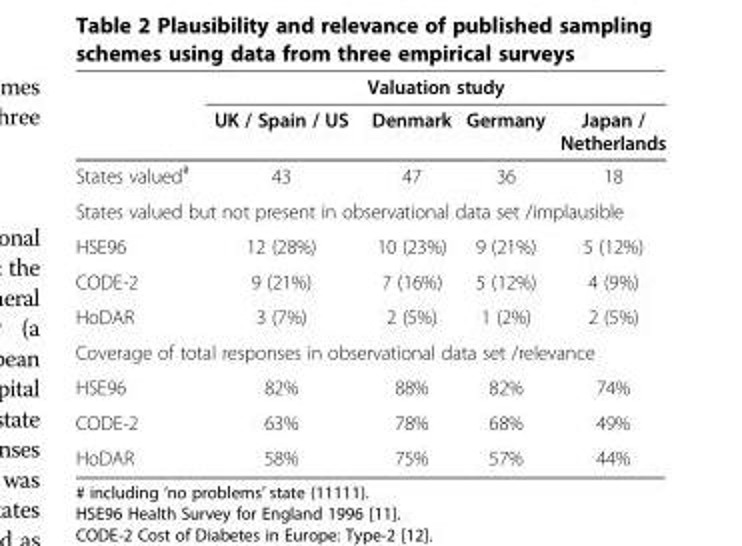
<table><thead><tr><td rowspan="2"></td><td colspan="4">Valuation study</td></tr><tr><td>UK / Spain / US</td><td>Denmark</td><td>Germany</td><td>Japan / Netherlands</td></tr></thead><tbody><tr><td>States valued<sup>#</sup></td><td>43</td><td>47</td><td>36</td><td>18</td></tr><tr><td colspan="5">States valued but not present in observational data set /implausible</td></tr><tr><td>HSE96</td><td>12 (28%)</td><td>10 (23%)</td><td>9 (21%)</td><td>5 (12%)</td></tr><tr><td>CODE-2</td><td>9 (21%)</td><td>7 (16%)</td><td>5 (12%)</td><td>4 (9%)</td></tr><tr><td>HoDAR</td><td>3 (7%)</td><td>2 (5%)</td><td>1 (2%)</td><td>2 (5%)</td></tr><tr><td colspan="5">Coverage of total responses in observational data set /relevance</td></tr><tr><td>HSE96</td><td>82%</td><td>88%</td><td>82%</td><td>74%</td></tr><tr><td>CODE-2</td><td>63%</td><td>78%</td><td>68%</td><td>49%</td></tr><tr><td>HoDAR</td><td>58%</td><td>75%</td><td>57%</td><td>44%</td></tr></tbody></table>